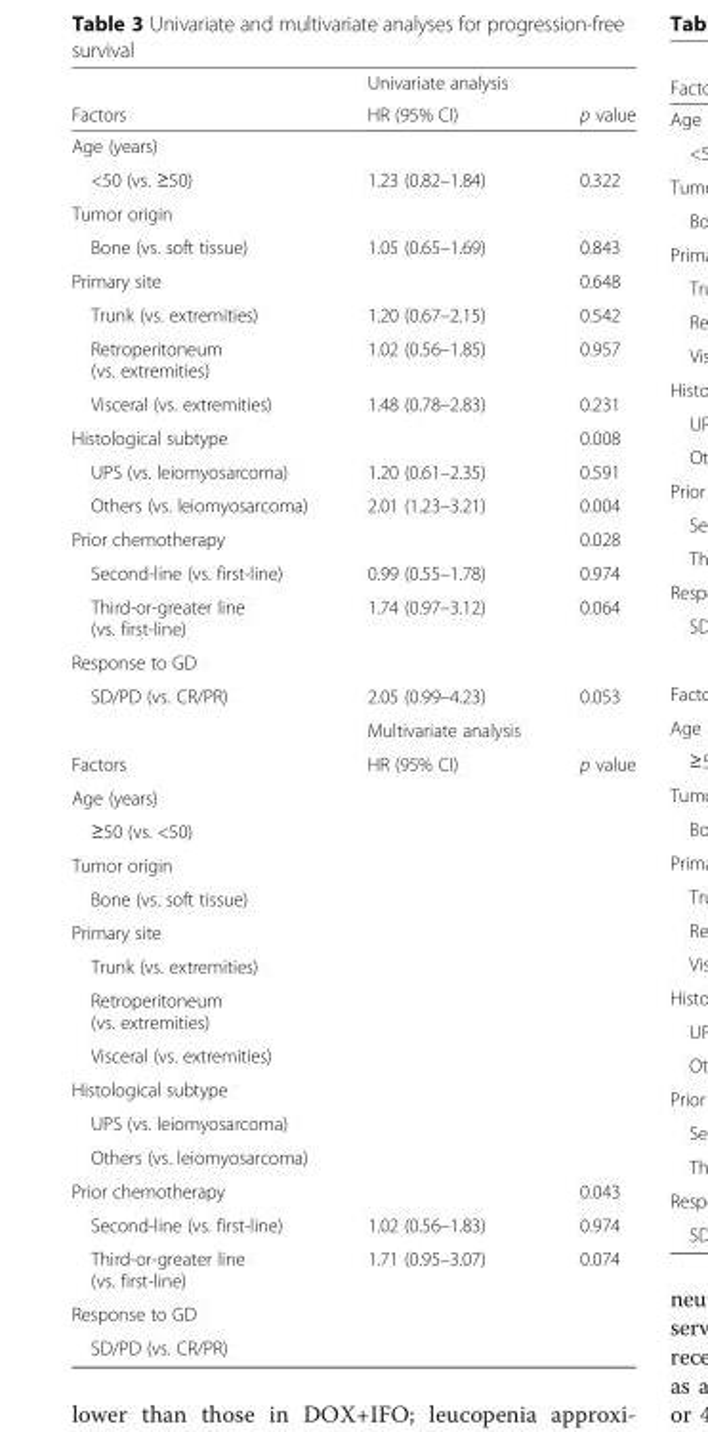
<table><thead><tr><td rowspan="2">Factors</td><td rowspan="2">Univariate analysis HR (95% CI)</td><td rowspan="2">p value</td></tr><tr></tr></thead><tbody><tr><td colspan="3">Age (years)</td></tr><tr><td>&lt;50 (vs. ≥50)</td><td>1.23 (0.82–1.84)</td><td>0.322</td></tr><tr><td colspan="3">Tumor origin</td></tr><tr><td>Bone (vs. soft tissue)</td><td>1.05 (0.65–1.69)</td><td>0.843</td></tr><tr><td>Primary site</td><td></td><td>0.648</td></tr><tr><td>Trunk (vs. extremities)</td><td>1.20 (0.67–2.15)</td><td>0.542</td></tr><tr><td>Retroperitoneum (vs. extremities)</td><td>1.02 (0.56–1.85)</td><td>0.957</td></tr><tr><td>Visceral (vs. extremities)</td><td>1.48 (0.78–2.83)</td><td>0.231</td></tr><tr><td>Histological subtype</td><td></td><td>0.008</td></tr><tr><td>UPS (vs. leiomyosarcoma)</td><td>1.20 (0.61–2.35)</td><td>0.591</td></tr><tr><td>Others (vs. leiomyosarcoma)</td><td>2.01 (1.23–3.21)</td><td>0.004</td></tr><tr><td>Prior chemotherapy</td><td></td><td>0.028</td></tr><tr><td>Second-line (vs. first-line)</td><td>0.99 (0.55–1.78)</td><td>0.974</td></tr><tr><td>Third-or-greater line (vs. first-line)</td><td>1.74 (0.97–3.12)</td><td>0.064</td></tr><tr><td colspan="3">Response to GD</td></tr><tr><td rowspan="2">SD/PD (vs. CR/PR)</td><td>2.05 (0.99–4.23)</td><td>0.053</td></tr><tr><td>Multivariate analysis</td><td></td></tr><tr><td>Factors</td><td>HR (95% CI)</td><td>p value</td></tr><tr><td colspan="3">Age (years)</td></tr><tr><td colspan="3">≥50 (vs. &lt;50)</td></tr><tr><td colspan="3">Tumor origin</td></tr><tr><td colspan="3">Bone (vs. soft tissue)</td></tr><tr><td colspan="3">Primary site</td></tr><tr><td colspan="3">Trunk (vs. extremities)</td></tr><tr><td colspan="3">Retroperitoneum (vs. extremities)</td></tr><tr><td colspan="3">Visceral (vs. extremities)</td></tr><tr><td colspan="3">Histological subtype</td></tr><tr><td colspan="3">UPS (vs. leiomyosarcoma)</td></tr><tr><td colspan="3">Others (vs. leiomyosarcoma)</td></tr><tr><td>Prior chemotherapy</td><td></td><td>0.043</td></tr><tr><td>Second-line (vs. first-line)</td><td>1.02 (0.56–1.83)</td><td>0.974</td></tr><tr><td>Third-or-greater line (vs. first-line)</td><td>1.71 (0.95–3.07)</td><td>0.074</td></tr><tr><td colspan="3">Response to GD</td></tr><tr><td>SD/PD (vs. CR/PR)</td><td></td><td></td></tr></tbody></table>